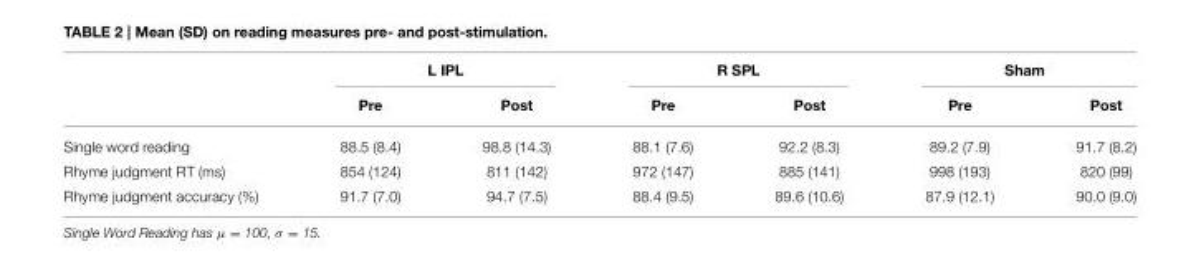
<table><thead><tr><td rowspan="2"></td><td colspan="2">L IPL</td><td colspan="2">R SPL</td><td colspan="2">Sham</td></tr><tr><td>Pre</td><td>Post</td><td>Pre</td><td>Post</td><td>Pre</td><td>Post</td></tr></thead><tbody><tr><td>Single word reading</td><td>88.5 (8.4)</td><td>98.8 (14.3)</td><td>88.1 (7.6)</td><td>92.2 (8.3)</td><td>89.2 (7.9)</td><td>91.7 (8.2)</td></tr><tr><td>Rhyme judgment RT (ms)</td><td>854 (124)</td><td>811 (142)</td><td>972 (147)</td><td>885 (141)</td><td>998 (193)</td><td>820 (99)</td></tr><tr><td>Rhyme judgment accuracy (%)</td><td>91.7 (7.0)</td><td>94.7 (7.5)</td><td>88.4 (9.5)</td><td>89.6 (10.6)</td><td>87.9 (12.1)</td><td>90.0 (9.0)</td></tr></tbody></table>